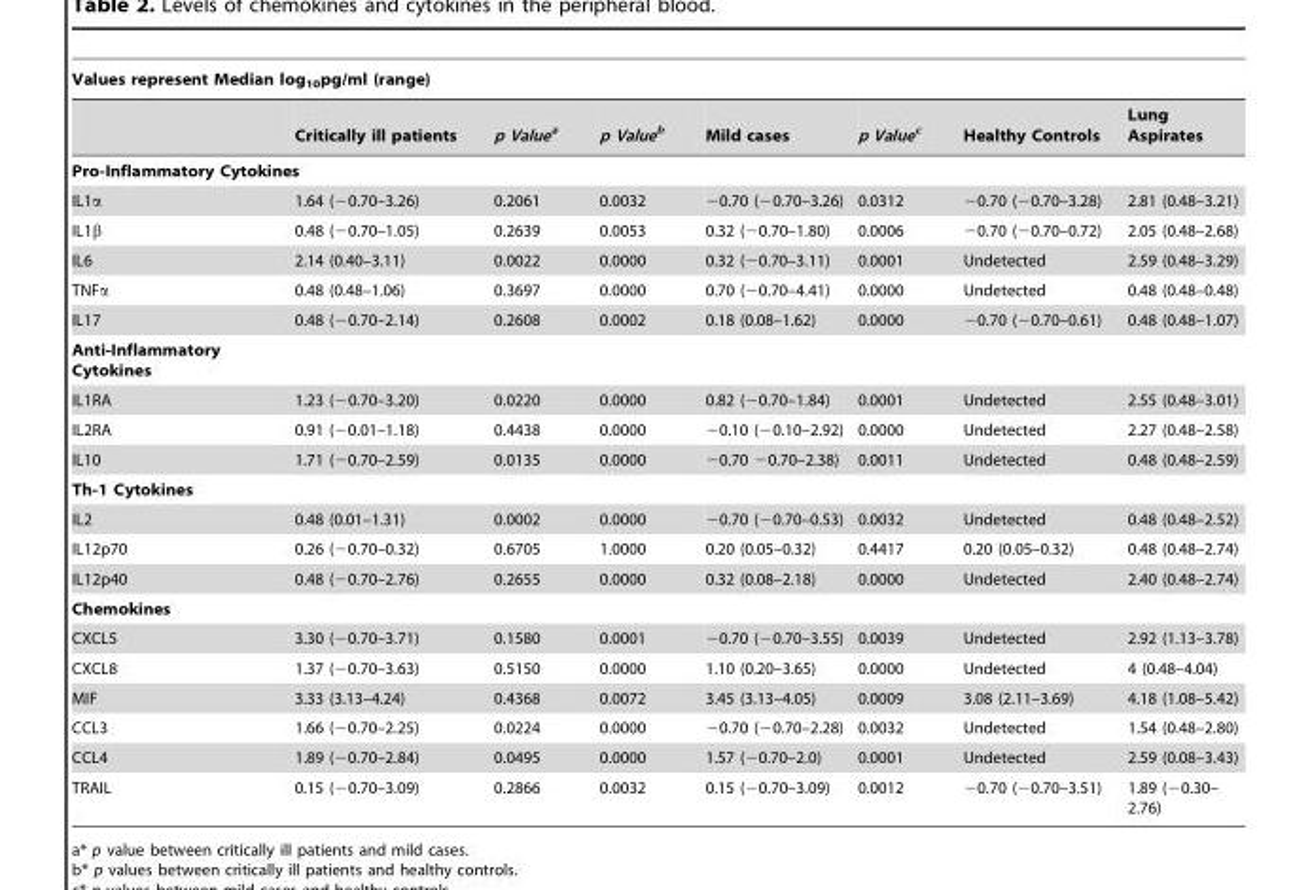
<table><thead><tr><td colspan="8">Values represent Median log<sub>10</sub>pg/ml (range)</td></tr><tr><td></td><td>Critically ill patients</td><td>p Valuea</td><td>p Valueb</td><td>Mild cases</td><td>p Valuec</td><td>Healthy Controls</td><td>Lung Aspirates</td></tr></thead><tbody><tr><td colspan="8">Pro-Inflammatory Cytokines</td></tr><tr><td>IL1α</td><td>1.64 (−0.70–3.26)</td><td>0.2061</td><td>0.0032</td><td>−0.70 (−0.70–3.26)</td><td>0.0312</td><td>−0.70 (−0.70–3.28)</td><td>2.81 (0.48–3.21)</td></tr><tr><td>IL1β</td><td>0.48 (−0.70–1.05)</td><td>0.2639</td><td>0.0053</td><td>0.32 (−0.70–1.80)</td><td>0.0006</td><td>−0.70 (−0.70–0.72)</td><td>2.05 (0.48–2.68)</td></tr><tr><td>IL6</td><td>2.14 (0.40–3.11)</td><td>0.0022</td><td>0.0000</td><td>0.32 (−0.70–3.11)</td><td>0.0001</td><td>Undetected</td><td>2.59 (0.48–3.29)</td></tr><tr><td>TNFα</td><td>0.48 (0.48–1.06)</td><td>0.3697</td><td>0.0000</td><td>0.70 (−0.70–4.41)</td><td>0.0000</td><td>Undetected</td><td>0.48 (0.48–0.48)</td></tr><tr><td>IL17</td><td>0.48 (−0.70–2.14)</td><td>0.2608</td><td>0.0002</td><td>0.18 (0.08–1.62)</td><td>0.0000</td><td>−0.70 (−0.70–0.61)</td><td>0.48 (0.48–1.07)</td></tr><tr><td colspan="8">Anti-Inflammatory Cytokines</td></tr><tr><td>IL1RA</td><td>1.23 (−0.70–3.20)</td><td>0.0220</td><td>0.0000</td><td>0.82 (−0.70–1.84)</td><td>0.0001</td><td>Undetected</td><td>2.55 (0.48–3.01)</td></tr><tr><td>IL2RA</td><td>0.91 (−0.01–1.18)</td><td>0.4438</td><td>0.0000</td><td>−0.10 (−0.10–2.92)</td><td>0.0000</td><td>Undetected</td><td>2.27 (0.48–2.58)</td></tr><tr><td>IL10</td><td>1.71 (−0.70–2.59)</td><td>0.0135</td><td>0.0000</td><td>−0.70 −0.70–2.38)</td><td>0.0011</td><td>Undetected</td><td>0.48 (0.48–2.59)</td></tr><tr><td colspan="8">Th-1 Cytokines</td></tr><tr><td>IL2</td><td>0.48 (0.01–1.31)</td><td>0.0002</td><td>0.0000</td><td>−0.70 (−0.70–0.53)</td><td>0.0032</td><td>Undetected</td><td>0.48 (0.48–2.52)</td></tr><tr><td>IL12p70</td><td>0.26 (−0.70–0.32)</td><td>0.6705</td><td>1.0000</td><td>0.20 (0.05–0.32)</td><td>0.4417</td><td>0.20 (0.05–0.32)</td><td>0.48 (0.48–2.74)</td></tr><tr><td>IL12p40</td><td>0.48 (−0.70–2.76)</td><td>0.2655</td><td>0.0000</td><td>0.32 (0.08–2.18)</td><td>0.0000</td><td>Undetected</td><td>2.40 (0.48–2.74)</td></tr><tr><td colspan="8">Chemokines</td></tr><tr><td>CXCL5</td><td>3.30 (−0.70–3.71)</td><td>0.1580</td><td>0.0001</td><td>−0.70 (−0.70–3.55)</td><td>0.0039</td><td>Undetected</td><td>2.92 (1.13–3.78)</td></tr><tr><td>CXCL8</td><td>1.37 (−0.70–3.63)</td><td>0.5150</td><td>0.0000</td><td>1.10 (0.20–3.65)</td><td>0.0000</td><td>Undetected</td><td>4 (0.48–4.04)</td></tr><tr><td>MIF</td><td>3.33 (3.13–4.24)</td><td>0.4368</td><td>0.0072</td><td>3.45 (3.13–4.05)</td><td>0.0009</td><td>3.08 (2.11–3.69)</td><td>4.18 (1.08–5.42)</td></tr><tr><td>CCL3</td><td>1.66 (−0.70–2.25)</td><td>0.0224</td><td>0.0000</td><td>−0.70 (−0.70–2.28)</td><td>0.0032</td><td>Undetected</td><td>1.54 (0.48–2.80)</td></tr><tr><td>CCL4</td><td>1.89 (−0.70–2.84)</td><td>0.0495</td><td>0.0000</td><td>1.57 (−0.70–2.0)</td><td>0.0001</td><td>Undetected</td><td>2.59 (0.08–3.43)</td></tr><tr><td>TRAIL</td><td>0.15 (−0.70–3.09)</td><td>0.2866</td><td>0.0032</td><td>0.15 (−0.70–3.09)</td><td>0.0012</td><td>−0.70 (−0.70–3.51)</td><td>1.89 (−0.30– 2.76)</td></tr></tbody></table>